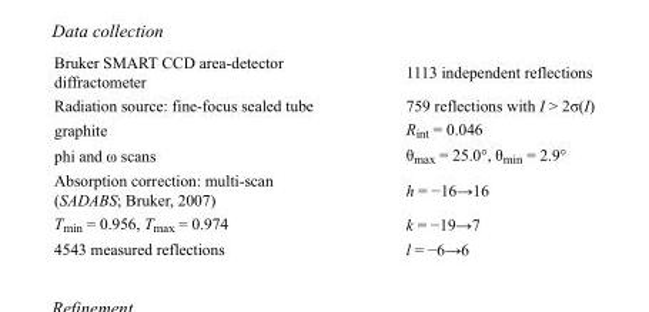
<table><tbody><tr><td>Bruker SMART CCD area-detector diffractometer</td><td>1113 independent reflections</td></tr><tr><td>Radiation source: fine-focus sealed tube</td><td>759 reflections with I &gt; 2σ(I)</td></tr><tr><td>graphite</td><td>R<sub>int</sub> = 0.046</td></tr><tr><td>phi and ω scans</td><td>θ<sub>max</sub> = 25.0°, θ<sub>min</sub> = 2.9°</td></tr><tr><td>Absorption correction: multi-scan (SADABS; Bruker, 2007)</td><td>h = −16→16</td></tr><tr><td>T<sub>min</sub> = 0.956, T<sub>max</sub> = 0.974</td><td>k = −19→7</td></tr><tr><td>4543 measured reflections</td><td>l = −6→6</td></tr></tbody></table>